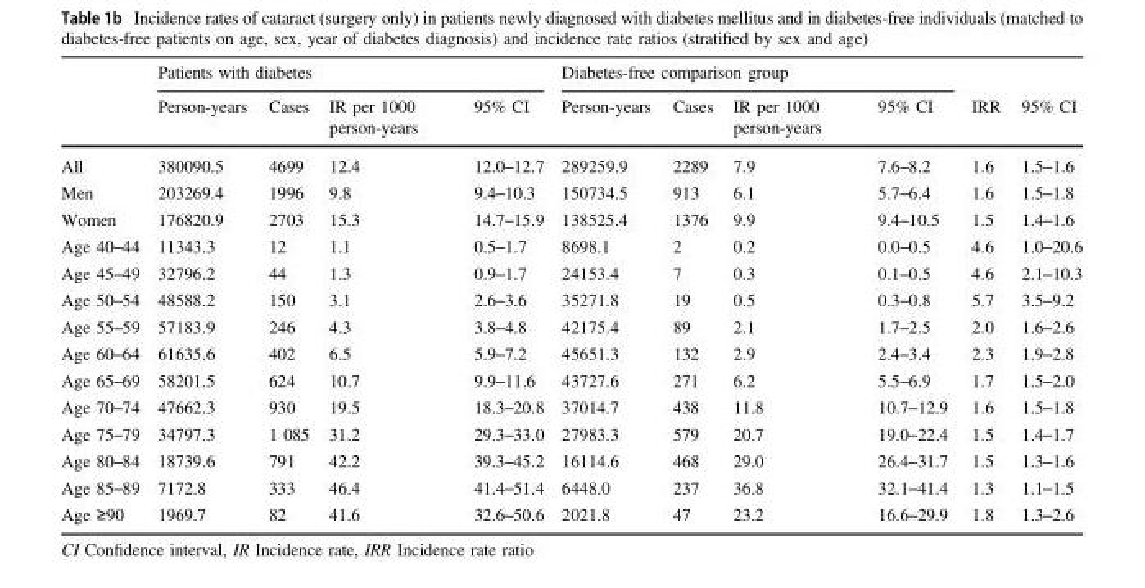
<table><thead><tr><td rowspan="2"></td><td colspan="4">Patients with diabetes</td><td colspan="4">Diabetes-free comparison group</td><td rowspan="2">IRR</td><td rowspan="2">95% CI</td></tr><tr><td>Person-years</td><td>Cases</td><td>IR per 1000 person-years</td><td>95% CI</td><td>Person-years</td><td>Cases</td><td>IR per 1000 person-years</td><td>95% CI</td></tr></thead><tbody><tr><td>All</td><td>380090.5</td><td>4699</td><td>12.4</td><td>12.0–12.7</td><td>289259.9</td><td>2289</td><td>7.9</td><td>7.6–8.2</td><td>1.6</td><td>1.5–1.6</td></tr><tr><td>Men</td><td>203269.4</td><td>1996</td><td>9.8</td><td>9.4–10.3</td><td>150734.5</td><td>913</td><td>6.1</td><td>5.7–6.4</td><td>1.6</td><td>1.5–1.8</td></tr><tr><td>Women</td><td>176820.9</td><td>2703</td><td>15.3</td><td>14.7–15.9</td><td>138525.4</td><td>1376</td><td>9.9</td><td>9.4–10.5</td><td>1.5</td><td>1.4–1.6</td></tr><tr><td>Age 40–44</td><td>11343.3</td><td>12</td><td>1.1</td><td>0.5–1.7</td><td>8698.1</td><td>2</td><td>0.2</td><td>0.0–0.5</td><td>4.6</td><td>1.0–20.6</td></tr><tr><td>Age 45–49</td><td>32796.2</td><td>44</td><td>1.3</td><td>0.9–1.7</td><td>24153.4</td><td>7</td><td>0.3</td><td>0.1–0.5</td><td>4.6</td><td>2.1–10.3</td></tr><tr><td>Age 50–54</td><td>48588.2</td><td>150</td><td>3.1</td><td>2.6–3.6</td><td>35271.8</td><td>19</td><td>0.5</td><td>0.3–0.8</td><td>5.7</td><td>3.5–9.2</td></tr><tr><td>Age 55–59</td><td>57183.9</td><td>246</td><td>4.3</td><td>3.8–4.8</td><td>42175.4</td><td>89</td><td>2.1</td><td>1.7–2.5</td><td>2.0</td><td>1.6–2.6</td></tr><tr><td>Age 60–64</td><td>61635.6</td><td>402</td><td>6.5</td><td>5.9–7.2</td><td>45651.3</td><td>132</td><td>2.9</td><td>2.4–3.4</td><td>2.3</td><td>1.9–2.8</td></tr><tr><td>Age 65–69</td><td>58201.5</td><td>624</td><td>10.7</td><td>9.9–11.6</td><td>43727.6</td><td>271</td><td>6.2</td><td>5.5–6.9</td><td>1.7</td><td>1.5–2.0</td></tr><tr><td>Age 70–74</td><td>47662.3</td><td>930</td><td>19.5</td><td>18.3–20.8</td><td>37014.7</td><td>438</td><td>11.8</td><td>10.7–12.9</td><td>1.6</td><td>1.5–1.8</td></tr><tr><td>Age 75–79</td><td>34797.3</td><td>1 085</td><td>31.2</td><td>29.3–33.0</td><td>27983.3</td><td>579</td><td>20.7</td><td>19.0–22.4</td><td>1.5</td><td>1.4–1.7</td></tr><tr><td>Age 80–84</td><td>18739.6</td><td>791</td><td>42.2</td><td>39.3–45.2</td><td>16114.6</td><td>468</td><td>29.0</td><td>26.4–31.7</td><td>1.5</td><td>1.3–1.6</td></tr><tr><td>Age 85–89</td><td>7172.8</td><td>333</td><td>46.4</td><td>41.4–51.4</td><td>6448.0</td><td>237</td><td>36.8</td><td>32.1–41.4</td><td>1.3</td><td>1.1–1.5</td></tr><tr><td>Age ≥90</td><td>1969.7</td><td>82</td><td>41.6</td><td>32.6–50.6</td><td>2021.8</td><td>47</td><td>23.2</td><td>16.6–29.9</td><td>1.8</td><td>1.3–2.6</td></tr></tbody></table>